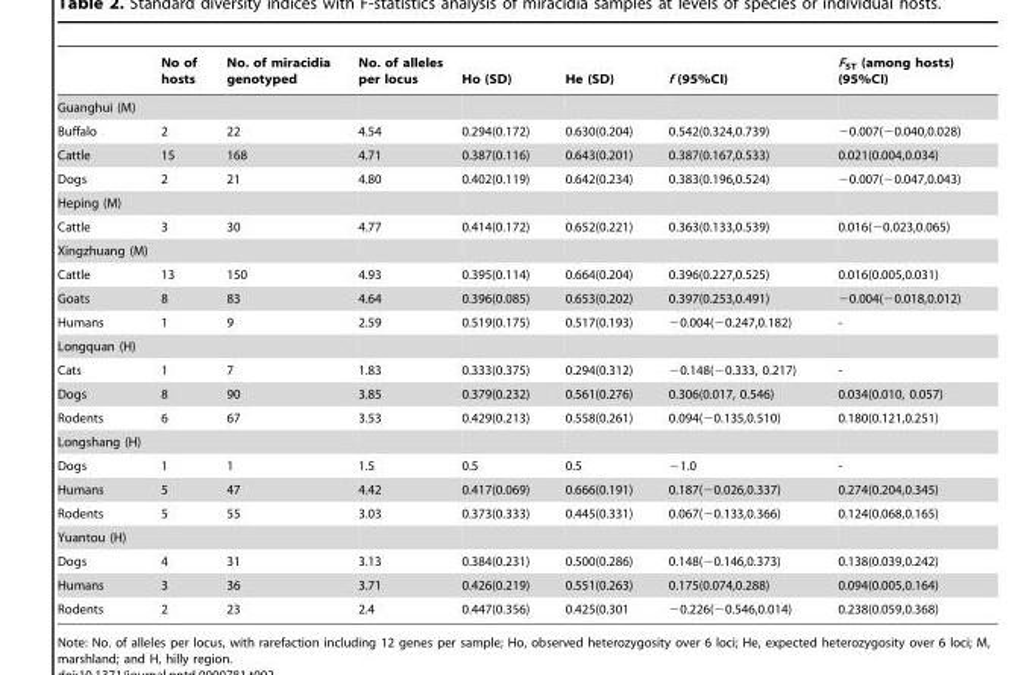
<table><thead><tr><td></td><td>No of hosts</td><td>No. of miracidia genotyped</td><td>No. of alleles per locus</td><td>Ho (SD)</td><td>He (SD)</td><td>f (95%CI)</td><td>F<sub>ST</sub> (among hosts) (95%CI)</td></tr></thead><tbody><tr><td colspan="8">Guanghui (M)</td></tr><tr><td>Buffalo</td><td>2</td><td>22</td><td>4.54</td><td>0.294(0.172)</td><td>0.630(0.204)</td><td>0.542(0.324,0.739)</td><td>−0.007(−0.040,0.028)</td></tr><tr><td>Cattle</td><td>15</td><td>168</td><td>4.71</td><td>0.387(0.116)</td><td>0.643(0.201)</td><td>0.387(0.167,0.533)</td><td>0.021(0.004,0.034)</td></tr><tr><td>Dogs</td><td>2</td><td>21</td><td>4.80</td><td>0.402(0.119)</td><td>0.642(0.234)</td><td>0.383(0.196,0.524)</td><td>−0.007(−0.047,0.043)</td></tr><tr><td colspan="8">Heping (M)</td></tr><tr><td>Cattle</td><td>3</td><td>30</td><td>4.77</td><td>0.414(0.172)</td><td>0.652(0.221)</td><td>0.363(0.133,0.539)</td><td>0.016(−0.023,0.065)</td></tr><tr><td colspan="8">Xingzhuang (M)</td></tr><tr><td>Cattle</td><td>13</td><td>150</td><td>4.93</td><td>0.395(0.114)</td><td>0.664(0.204)</td><td>0.396(0.227,0.525)</td><td>0.016(0.005,0.031)</td></tr><tr><td>Goats</td><td>8</td><td>83</td><td>4.64</td><td>0.396(0.085)</td><td>0.653(0.202)</td><td>0.397(0.253,0.491)</td><td>−0.004(−0.018,0.012)</td></tr><tr><td>Humans</td><td>1</td><td>9</td><td>2.59</td><td>0.519(0.175)</td><td>0.517(0.193)</td><td>−0.004(−0.247,0.182)</td><td>-</td></tr><tr><td colspan="8">Longquan (H)</td></tr><tr><td>Cats</td><td>1</td><td>7</td><td>1.83</td><td>0.333(0.375)</td><td>0.294(0.312)</td><td>−0.148(−0.333, 0.217)</td><td>-</td></tr><tr><td>Dogs</td><td>8</td><td>90</td><td>3.85</td><td>0.379(0.232)</td><td>0.561(0.276)</td><td>0.306(0.017, 0.546)</td><td>0.034(0.010, 0.057)</td></tr><tr><td>Rodents</td><td>6</td><td>67</td><td>3.53</td><td>0.429(0.213)</td><td>0.558(0.261)</td><td>0.094(−0.135,0.510)</td><td>0.180(0.121,0.251)</td></tr><tr><td colspan="8">Longshang (H)</td></tr><tr><td>Dogs</td><td>1</td><td>1</td><td>1.5</td><td>0.5</td><td>0.5</td><td>−1.0</td><td>-</td></tr><tr><td>Humans</td><td>5</td><td>47</td><td>4.42</td><td>0.417(0.069)</td><td>0.666(0.191)</td><td>0.187(−0.026,0.337)</td><td>0.274(0.204,0.345)</td></tr><tr><td>Rodents</td><td>5</td><td>55</td><td>3.03</td><td>0.373(0.333)</td><td>0.445(0.331)</td><td>0.067(−0.133,0.366)</td><td>0.124(0.068,0.165)</td></tr><tr><td colspan="8">Yuantou (H)</td></tr><tr><td>Dogs</td><td>4</td><td>31</td><td>3.13</td><td>0.384(0.231)</td><td>0.500(0.286)</td><td>0.148(−0.146,0.373)</td><td>0.138(0.039,0.242)</td></tr><tr><td>Humans</td><td>3</td><td>36</td><td>3.71</td><td>0.426(0.219)</td><td>0.551(0.263)</td><td>0.175(0.074,0.288)</td><td>0.094(0.005,0.164)</td></tr><tr><td>Rodents</td><td>2</td><td>23</td><td>2.4</td><td>0.447(0.356)</td><td>0.425(0.301</td><td>−0.226(−0.546,0.014)</td><td>0.238(0.059,0.368)</td></tr></tbody></table>